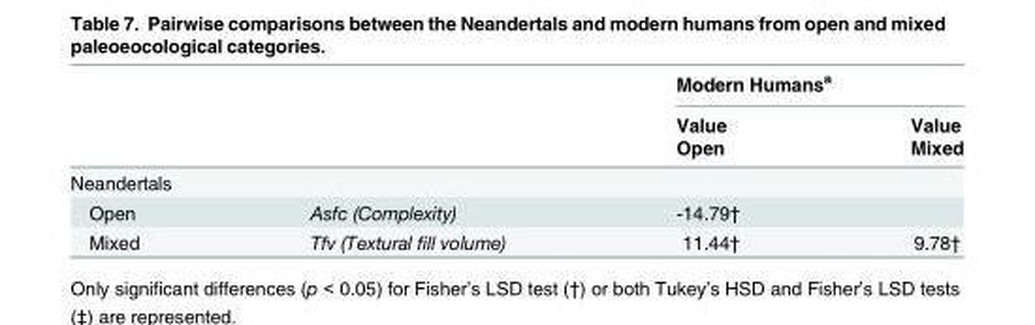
<table><thead><tr><td rowspan="3"></td><td rowspan="3"></td><td colspan="2">Modern Humans<sup>a</sup></td></tr><tr><td rowspan="2">Value Open</td><td rowspan="2">Value Mixed</td></tr><tr></tr></thead><tbody><tr><td colspan="4">Neandertals</td></tr><tr><td>Open</td><td>Asfc (Complexity)</td><td>-14.79†</td><td></td></tr><tr><td>Mixed</td><td>Tfv (Textural fill volume)</td><td>11.44†</td><td>9.78†</td></tr></tbody></table>